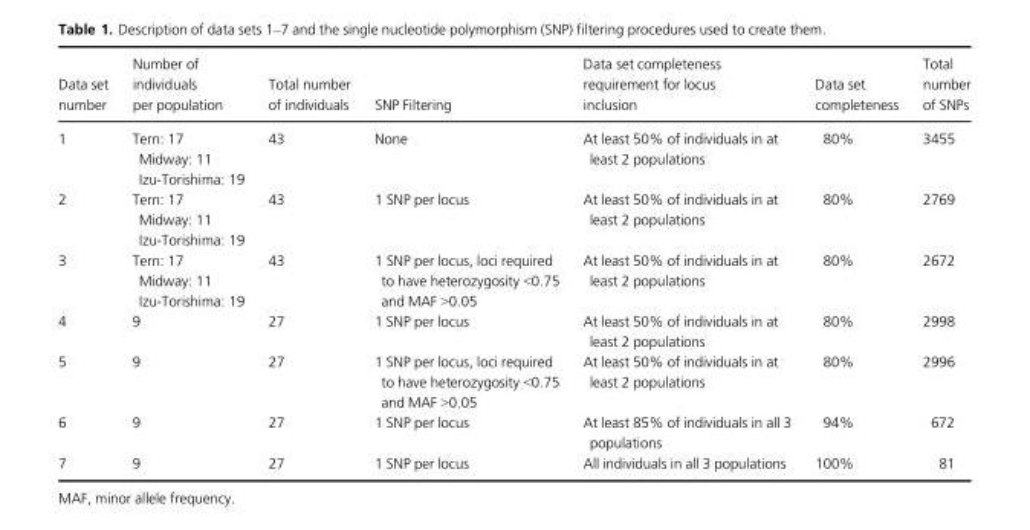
<table><thead><tr><td>Data set number</td><td>Number of individuals per population</td><td>Total number of individuals</td><td>SNP Filtering</td><td>Data set completeness requirement for locus inclusion</td><td>Data set completeness</td><td>Total number of SNPs</td></tr></thead><tbody><tr><td>1</td><td>Tern: 17 Midway: 11 Izu-Torishima: 19</td><td>43</td><td>None</td><td>At least 50% of individuals in at least 2 populations</td><td>80%</td><td>3455</td></tr><tr><td>2</td><td>Tern: 17 Midway: 11 Izu-Torishima: 19</td><td>43</td><td>1 SNP per locus</td><td>At least 50% of individuals in at least 2 populations</td><td>80%</td><td>2769</td></tr><tr><td>3</td><td>Tern: 17 Midway: 11 Izu-Torishima: 19</td><td>43</td><td>1 SNP per locus, loci required to have heterozygosity &lt;0.75 and MAF &gt;0.05</td><td>At least 50% of individuals in at least 2 populations</td><td>80%</td><td>2672</td></tr><tr><td>4</td><td>9</td><td>27</td><td>1 SNP per locus</td><td>At least 50% of individuals in at least 2 populations</td><td>80%</td><td>2998</td></tr><tr><td>5</td><td>9</td><td>27</td><td>1 SNP per locus, loci required to have heterozygosity &lt;0.75 and MAF &gt;0.05</td><td>At least 50% of individuals in at least 2 populations</td><td>80%</td><td>2996</td></tr><tr><td>6</td><td>9</td><td>27</td><td>1 SNP per locus</td><td>At least 85% of individuals in all 3 populations</td><td>94%</td><td>672</td></tr><tr><td>7</td><td>9</td><td>27</td><td>1 SNP per locus</td><td>All individuals in all 3 populations</td><td>100%</td><td>81</td></tr></tbody></table>